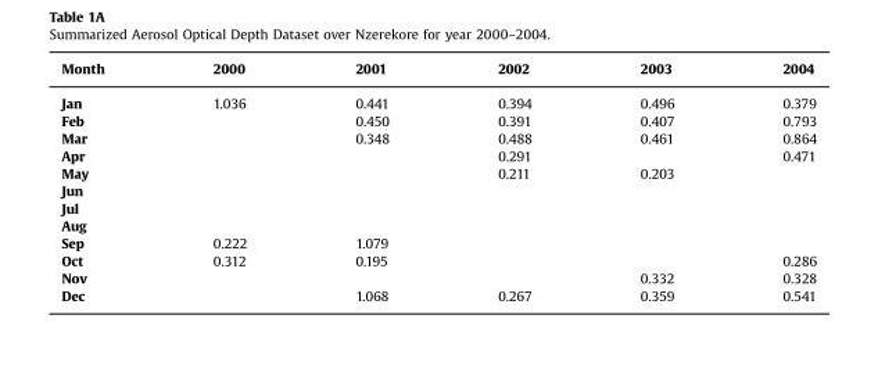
<table><thead><tr><td>Month</td><td>2000</td><td>2001</td><td>2002</td><td>2003</td><td>2004</td></tr></thead><tbody><tr><td>Jan</td><td>1.036</td><td>0.441</td><td>0.394</td><td>0.496</td><td>0.379</td></tr><tr><td>Feb</td><td></td><td>0.450</td><td>0.391</td><td>0.407</td><td>0.793</td></tr><tr><td>Mar</td><td></td><td>0.348</td><td>0.488</td><td>0.461</td><td>0.864</td></tr><tr><td>Apr</td><td></td><td></td><td>0.291</td><td></td><td>0.471</td></tr><tr><td>May</td><td></td><td></td><td>0.211</td><td>0.203</td><td></td></tr><tr><td colspan="6">Jun</td></tr><tr><td colspan="6">Jul</td></tr><tr><td colspan="6">Aug</td></tr><tr><td>Sep</td><td>0.222</td><td>1.079</td><td></td><td></td><td></td></tr><tr><td>Oct</td><td>0.312</td><td>0.195</td><td></td><td></td><td>0.286</td></tr><tr><td>Nov</td><td></td><td></td><td></td><td>0.332</td><td>0.328</td></tr><tr><td>Dec</td><td></td><td>1.068</td><td>0.267</td><td>0.359</td><td>0.541</td></tr></tbody></table>